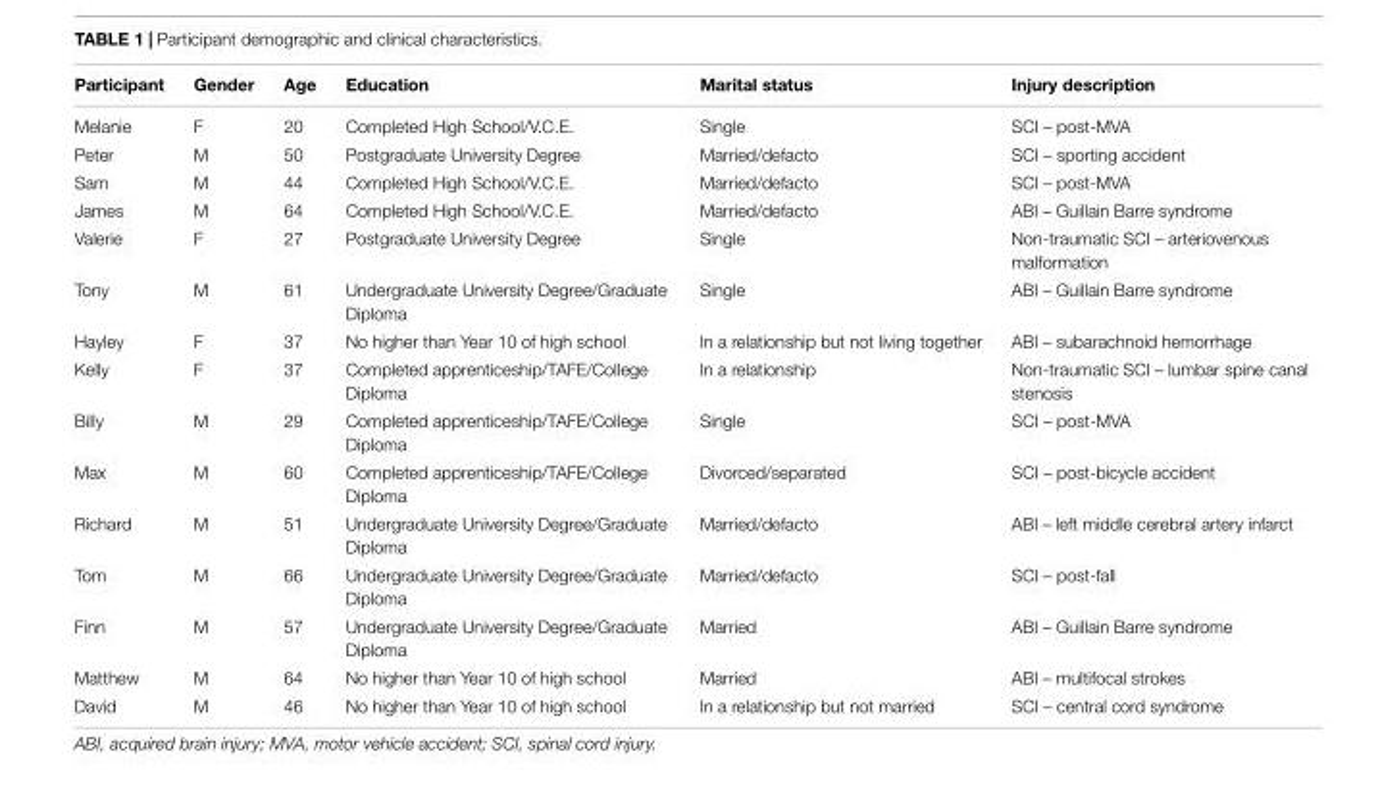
<table><thead><tr><td>Participant</td><td>Gender</td><td>Age</td><td>Education</td><td>Marital status</td><td>Injury description</td></tr></thead><tbody><tr><td>Melanie</td><td>F</td><td>20</td><td>Completed High School/V.C.E.</td><td>Single</td><td>SCI – post-MVA</td></tr><tr><td>Peter</td><td>M</td><td>50</td><td>Postgraduate University Degree</td><td>Married/defacto</td><td>SCI – sporting accident</td></tr><tr><td>Sam</td><td>M</td><td>44</td><td>Completed High School/V.C.E.</td><td>Married/defacto</td><td>SCI – post-MVA</td></tr><tr><td>James</td><td>M</td><td>64</td><td>Completed High School/V.C.E.</td><td>Married/defacto</td><td>ABI – Guillain Barre syndrome</td></tr><tr><td>Valerie</td><td>F</td><td>27</td><td>Postgraduate University Degree</td><td>Single</td><td>Non-traumatic SCI – arteriovenous malformation</td></tr><tr><td>Tony</td><td>M</td><td>61</td><td>Undergraduate University Degree/Graduate Diploma</td><td>Single</td><td>ABI – Guillain Barre syndrome</td></tr><tr><td>Hayley</td><td>F</td><td>37</td><td>No higher than Year 10 of high school</td><td>In a relationship but not living together</td><td>ABI – subarachnoid hemorrhage</td></tr><tr><td>Kelly</td><td>F</td><td>37</td><td>Completed apprenticeship/TAFE/College Diploma</td><td>In a relationship</td><td>Non-traumatic SCI – lumbar spine canal stenosis</td></tr><tr><td>Billy</td><td>M</td><td>29</td><td>Completed apprenticeship/TAFE/College Diploma</td><td>Single</td><td>SCI – post-MVA</td></tr><tr><td>Max</td><td>M</td><td>60</td><td>Completed apprenticeship/TAFE/College Diploma</td><td>Divorced/separated</td><td>SCI – post-bicycle accident</td></tr><tr><td>Richard</td><td>M</td><td>51</td><td>Undergraduate University Degree/Graduate Diploma</td><td>Married/defacto</td><td>ABI – left middle cerebral artery infarct</td></tr><tr><td>Tom</td><td>M</td><td>66</td><td>Undergraduate University Degree/Graduate Diploma</td><td>Married/defacto</td><td>SCI – post-fall</td></tr><tr><td>Finn</td><td>M</td><td>57</td><td>Undergraduate University Degree/Graduate Diploma</td><td>Married</td><td>ABI – Guillain Barre syndrome</td></tr><tr><td>Matthew</td><td>M</td><td>64</td><td>No higher than Year 10 of high school</td><td>Married</td><td>ABI – multifocal strokes</td></tr><tr><td>David</td><td>M</td><td>46</td><td>No higher than Year 10 of high school</td><td>In a relationship but not married</td><td>SCI – central cord syndrome</td></tr></tbody></table>